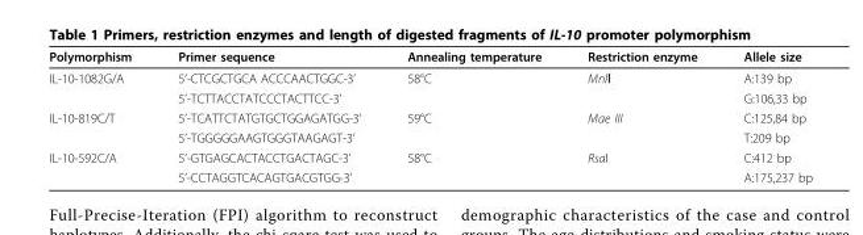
<table><thead><tr><td>Polymorphism</td><td>Primer sequence</td><td>Annealing temperature</td><td>Restriction enzyme</td><td>Allele size</td></tr></thead><tbody><tr><td rowspan="2">IL-10-1082G/A</td><td>5’-CTCGCTGCA ACCCAACTGGC-3’</td><td>58°C</td><td>MnlⅠ</td><td>A:139 bp</td></tr><tr><td>5’-TCTTACCTATCCCTACTTCC-3’</td><td></td><td></td><td>G:106,33 bp</td></tr><tr><td rowspan="2">IL-10-819C/T</td><td>5’-TCATTCTATGTGCTGGAGATGG-3’</td><td>59°C</td><td>Mae III</td><td>C:125,84 bp</td></tr><tr><td>5’-TGGGGGAAGTGGGTAAGAGT-3’</td><td></td><td></td><td>T:209 bp</td></tr><tr><td rowspan="2">IL-10-592C/A</td><td>5’-GTGAGCACTACCTGACTAGC-3’</td><td>58°C</td><td>RsaI</td><td>C:412 bp</td></tr><tr><td>5’-CCTAGGTCACAGTGACGTGG-3’</td><td></td><td></td><td>A:175,237 bp</td></tr></tbody></table>